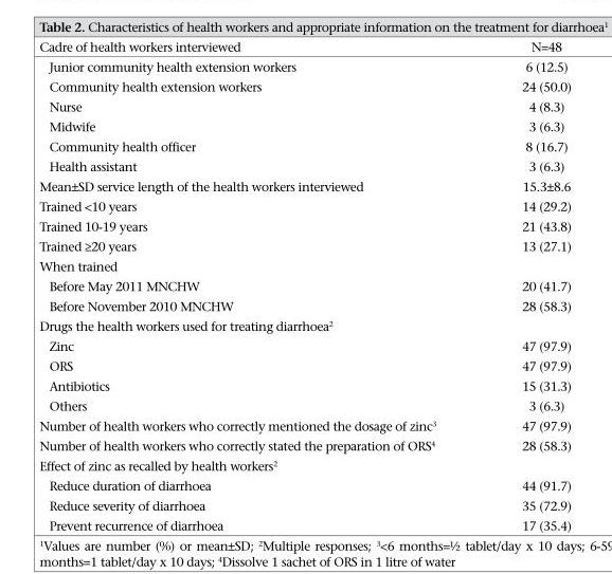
<table><thead><tr><td>Cadre of health workers interviewed</td><td>N=48</td></tr></thead><tbody><tr><td>Junior community health extension workers</td><td>6 (12.5)</td></tr><tr><td>Community health extension workers</td><td>24 (50.0)</td></tr><tr><td>Nurse</td><td>4 (8.3)</td></tr><tr><td>Midwife</td><td>3 (6.3)</td></tr><tr><td>Community health officer</td><td>8 (16.7)</td></tr><tr><td>Health assistant</td><td>3 (6.3)</td></tr><tr><td>Mean±SD service length of the health workers interviewed</td><td>15.3±8.6</td></tr><tr><td>Trained &lt;10 years</td><td>14 (29.2)</td></tr><tr><td>Trained 10-19 years</td><td>21 (43.8)</td></tr><tr><td>Trained ≥20 years</td><td>13 (27.1)</td></tr><tr><td colspan="2">When trained</td></tr><tr><td>Before May 2011 MNCHW</td><td>20 (41.7)</td></tr><tr><td>Before November 2010 MNCHW</td><td>28 (58.3)</td></tr><tr><td colspan="2">Drugs the health workers used for treating diarrhoea<sup>2</sup></td></tr><tr><td>Zinc</td><td>47 (97.9)</td></tr><tr><td>ORS</td><td>47 (97.9)</td></tr><tr><td>Antibiotics</td><td>15 (31.3)</td></tr><tr><td>Others</td><td>3 (6.3)</td></tr><tr><td>Number of health workers who correctly mentioned the dosage of zinc<sup>3</sup></td><td>47 (97.9)</td></tr><tr><td>Number of health workers who correctly stated the preparation of ORS<sup>4</sup></td><td>28 (58.3)</td></tr><tr><td colspan="2">Effect of zinc as recalled by health workers<sup>2</sup></td></tr><tr><td>Reduce duration of diarrhoea</td><td>44 (91.7)</td></tr><tr><td>Reduce severity of diarrhoea</td><td>35 (72.9)</td></tr><tr><td>Prevent recurrence of diarrhoea</td><td>17 (35.4)</td></tr></tbody></table>